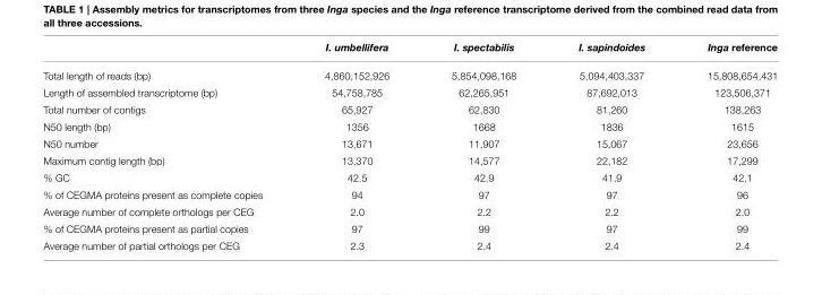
<table><thead><tr><td></td><td>I. umbellifera</td><td>I. spectabilis</td><td>I. sapindoides</td><td>Inga reference</td></tr></thead><tbody><tr><td>Total length of reads (bp)</td><td>4,860,152,926</td><td>5,854,098,168</td><td>5,094,403,337</td><td>15,808,654,431</td></tr><tr><td>Length of assembled transcriptome (bp)</td><td>54,758,785</td><td>62,265,951</td><td>87,692,013</td><td>123,506,371</td></tr><tr><td>Total number of contigs</td><td>65,927</td><td>62,830</td><td>81,260</td><td>138,263</td></tr><tr><td>N50 length (bp)</td><td>1356</td><td>1668</td><td>1836</td><td>1615</td></tr><tr><td>N50 number</td><td>13,671</td><td>11,907</td><td>15,067</td><td>23,656</td></tr><tr><td>Maximum contig length (bp)</td><td>13,370</td><td>14,577</td><td>22,182</td><td>17,299</td></tr><tr><td>% GC</td><td>42.5</td><td>42.9</td><td>41.9</td><td>42.1</td></tr><tr><td>% of CEGMA proteins present as complete copies</td><td>94</td><td>97</td><td>97</td><td>96</td></tr><tr><td>Average number of complete orthologs per CEG</td><td>2.0</td><td>2.2</td><td>2.2</td><td>2.0</td></tr><tr><td>% of CEGMA proteins present as partial copies</td><td>97</td><td>99</td><td>97</td><td>99</td></tr><tr><td>Average number of partial orthologs per CEG</td><td>2.3</td><td>2.4</td><td>2.4</td><td>2.4</td></tr></tbody></table>